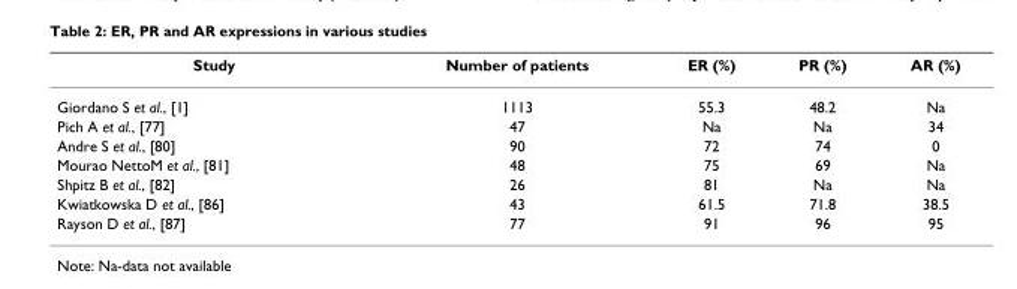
<table><thead><tr><td>Study</td><td>Number of patients</td><td>ER (%)</td><td>PR (%)</td><td>AR (%)</td></tr></thead><tbody><tr><td>Giordano S et al., [1]</td><td>1113</td><td>55.3</td><td>48.2</td><td>Na</td></tr><tr><td>Pich A et al., [77]</td><td>47</td><td>Na</td><td>Na</td><td>34</td></tr><tr><td>Andre S et al., [80]</td><td>90</td><td>72</td><td>74</td><td>0</td></tr><tr><td>Mourao NettoM et al., [81]</td><td>48</td><td>75</td><td>69</td><td>Na</td></tr><tr><td>Shpitz B et al., [82]</td><td>26</td><td>81</td><td>Na</td><td>Na</td></tr><tr><td>Kwiatkowska D et al., [86]</td><td>43</td><td>61.5</td><td>71.8</td><td>38.5</td></tr><tr><td>Rayson D et al., [87]</td><td>77</td><td>91</td><td>96</td><td>95</td></tr></tbody></table>